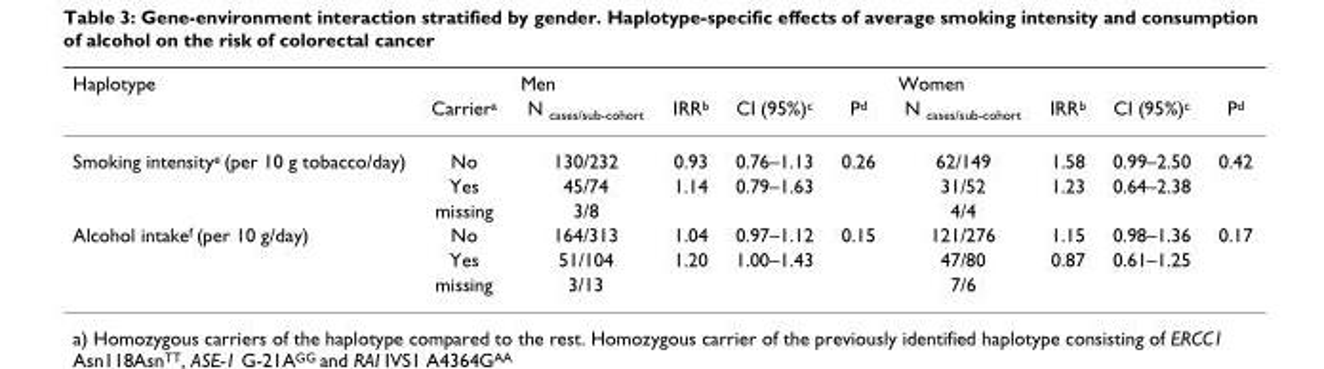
<table><thead><tr><td rowspan="2">Haplotype</td><td rowspan="2">Carrier<sup>a</sup></td><td colspan="4">Men</td><td colspan="4">Women</td></tr><tr><td>N <sub>cases/sub-cohort</sub></td><td>IRR<sup>b</sup></td><td>CI (95%)<sup>c</sup></td><td>P<sup>d</sup></td><td>N <sub>cases/sub-cohort</sub></td><td>IRR<sup>b</sup></td><td>CI (95%)<sup>c</sup></td><td>P<sup>d</sup></td></tr></thead><tbody><tr><td rowspan="3">Smoking intensity<sup>e</sup> (per 10 g tobacco/day)</td><td>No</td><td>130/232</td><td>0.93</td><td>0.76–1.13</td><td>0.26</td><td>62/149</td><td>1.58</td><td>0.99–2.50</td><td>0.42</td></tr><tr><td>Yes</td><td>45/74</td><td>1.14</td><td>0.79–1.63</td><td></td><td>31/52</td><td>1.23</td><td>0.64–2.38</td><td></td></tr><tr><td>missing</td><td>3/8</td><td></td><td></td><td></td><td>4/4</td><td></td><td></td><td></td></tr><tr><td rowspan="3">Alcohol intake<sup>f</sup> (per 10 g/day)</td><td>No</td><td>164/313</td><td>1.04</td><td>0.97–1.12</td><td>0.15</td><td>121/276</td><td>1.15</td><td>0.98–1.36</td><td>0.17</td></tr><tr><td>Yes</td><td>51/104</td><td>1.20</td><td>1.00–1.43</td><td></td><td>47/80</td><td>0.87</td><td>0.61–1.25</td><td></td></tr><tr><td>missing</td><td>3/13</td><td></td><td></td><td></td><td>7/6</td><td></td><td></td><td></td></tr></tbody></table>